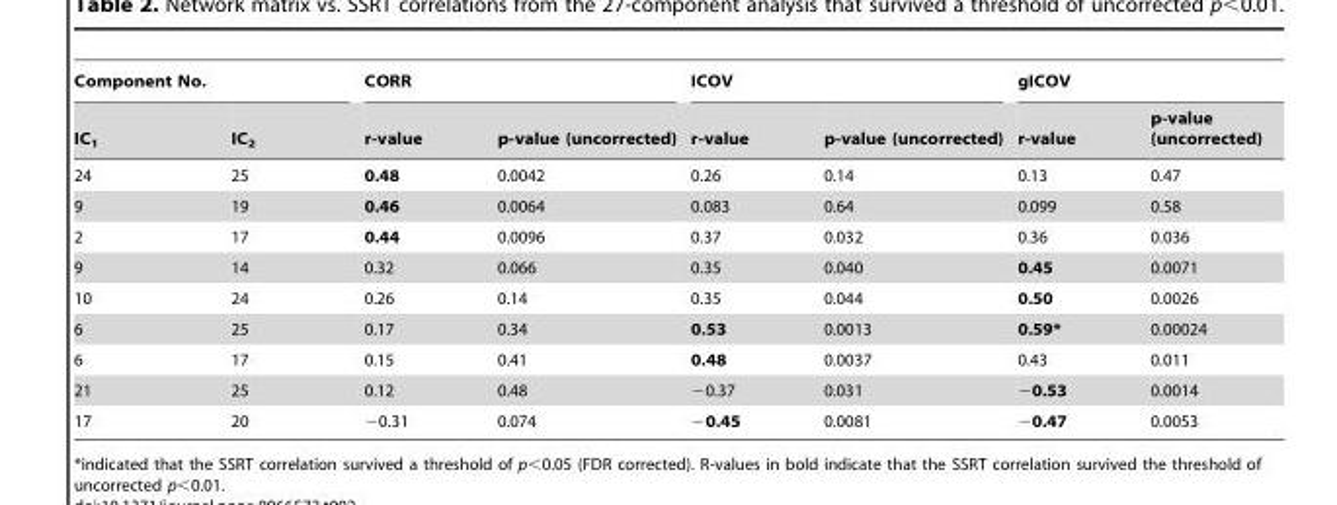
<table><thead><tr><td colspan="2">Component No.</td><td colspan="2">CORR</td><td colspan="2">ICOV</td><td colspan="2">gICOV</td></tr><tr><td>IC<sub>1</sub></td><td>IC<sub>2</sub></td><td>r-value</td><td>p-value (uncorrected)</td><td>r-value</td><td>p-value (uncorrected)</td><td>r-value</td><td>p-value (uncorrected)</td></tr></thead><tbody><tr><td>24</td><td>25</td><td>0.48</td><td>0.0042</td><td>0.26</td><td>0.14</td><td>0.13</td><td>0.47</td></tr><tr><td>9</td><td>19</td><td>0.46</td><td>0.0064</td><td>0.083</td><td>0.64</td><td>0.099</td><td>0.58</td></tr><tr><td>2</td><td>17</td><td>0.44</td><td>0.0096</td><td>0.37</td><td>0.032</td><td>0.36</td><td>0.036</td></tr><tr><td>9</td><td>14</td><td>0.32</td><td>0.066</td><td>0.35</td><td>0.040</td><td>0.45</td><td>0.0071</td></tr><tr><td>10</td><td>24</td><td>0.26</td><td>0.14</td><td>0.35</td><td>0.044</td><td>0.50</td><td>0.0026</td></tr><tr><td>6</td><td>25</td><td>0.17</td><td>0.34</td><td>0.53</td><td>0.0013</td><td>0.59*</td><td>0.00024</td></tr><tr><td>6</td><td>17</td><td>0.15</td><td>0.41</td><td>0.48</td><td>0.0037</td><td>0.43</td><td>0.011</td></tr><tr><td>21</td><td>25</td><td>0.12</td><td>0.48</td><td>−0.37</td><td>0.031</td><td>−0.53</td><td>0.0014</td></tr><tr><td>17</td><td>20</td><td>−0.31</td><td>0.074</td><td>−0.45</td><td>0.0081</td><td>−0.47</td><td>0.0053</td></tr></tbody></table>